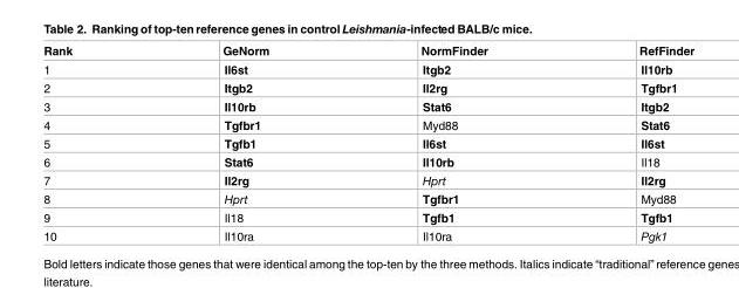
<table><thead><tr><td>Rank</td><td>GeNorm</td><td>NormFinder</td><td>RefFinder</td></tr></thead><tbody><tr><td>1</td><td>Il6st</td><td>Itgb2</td><td>Il10rb</td></tr><tr><td>2</td><td>Itgb2</td><td>Il2rg</td><td>Tgfbr1</td></tr><tr><td>3</td><td>Il10rb</td><td>Stat6</td><td>Itgb2</td></tr><tr><td>4</td><td>Tgfbr1</td><td>Myd88</td><td>Stat6</td></tr><tr><td>5</td><td>Tgfb1</td><td>Il6st</td><td>Il6st</td></tr><tr><td>6</td><td>Stat6</td><td>Il10rb</td><td>Il18</td></tr><tr><td>7</td><td>Il2rg</td><td>Hprt</td><td>Il2rg</td></tr><tr><td>8</td><td>Hprt</td><td>Tgfbr1</td><td>Myd88</td></tr><tr><td>9</td><td>Il18</td><td>Tgfb1</td><td>Tgfb1</td></tr><tr><td>10</td><td>Il10ra</td><td>Il10ra</td><td>Pgk1</td></tr></tbody></table>